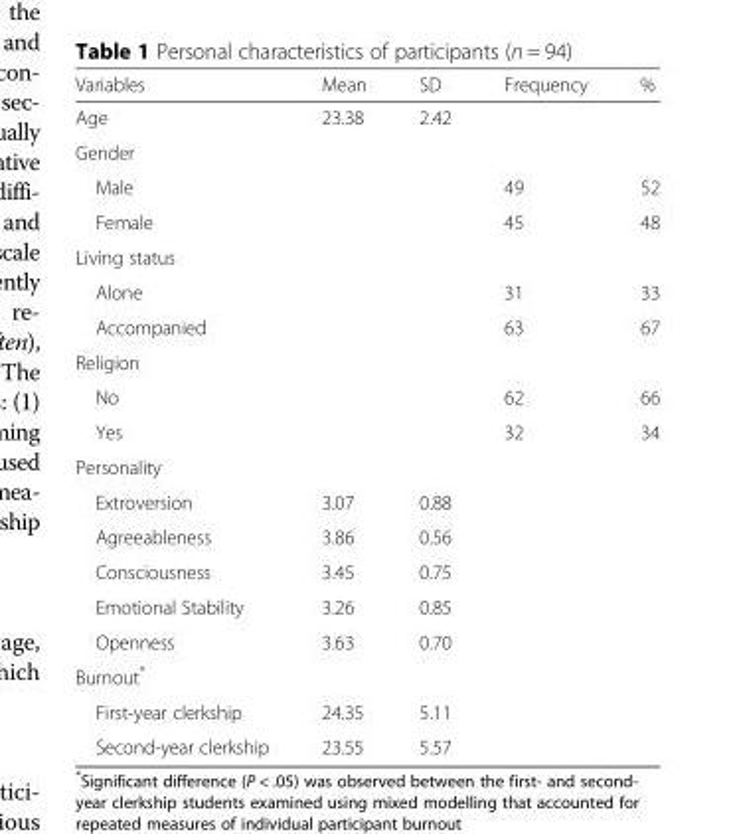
<table><thead><tr><td>Variables</td><td>Mean</td><td>SD</td><td>Frequency</td><td>%</td></tr></thead><tbody><tr><td>Age</td><td>23.38</td><td>2.42</td><td></td><td></td></tr><tr><td colspan="5">Gender</td></tr><tr><td>Male</td><td></td><td></td><td>49</td><td>52</td></tr><tr><td>Female</td><td></td><td></td><td>45</td><td>48</td></tr><tr><td colspan="5">Living status</td></tr><tr><td>Alone</td><td></td><td></td><td>31</td><td>33</td></tr><tr><td>Accompanied</td><td></td><td></td><td>63</td><td>67</td></tr><tr><td colspan="5">Religion</td></tr><tr><td>No</td><td></td><td></td><td>62</td><td>66</td></tr><tr><td>Yes</td><td></td><td></td><td>32</td><td>34</td></tr><tr><td colspan="5">Personality</td></tr><tr><td>Extroversion</td><td>3.07</td><td>0.88</td><td></td><td></td></tr><tr><td>Agreeableness</td><td>3.86</td><td>0.56</td><td></td><td></td></tr><tr><td>Consciousness</td><td>3.45</td><td>0.75</td><td></td><td></td></tr><tr><td>Emotional Stability</td><td>3.26</td><td>0.85</td><td></td><td></td></tr><tr><td>Openness</td><td>3.63</td><td>0.70</td><td></td><td></td></tr><tr><td colspan="5">Burnout*</td></tr><tr><td>First-year clerkship</td><td>24.35</td><td>5.11</td><td></td><td></td></tr><tr><td>Second-year clerkship</td><td>23.55</td><td>5.57</td><td></td><td></td></tr></tbody></table>